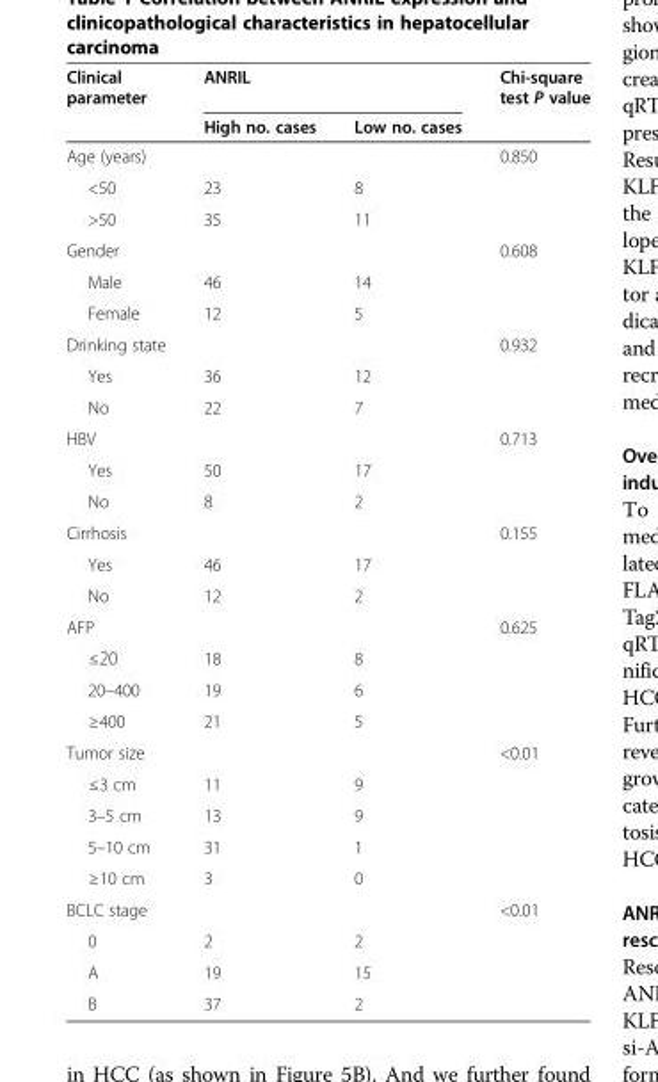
<table><thead><tr><td rowspan="2">Clinical parameter</td><td colspan="2">ANRIL</td><td rowspan="2">Chi-square test P value</td></tr><tr><td>High no. cases</td><td>Low no. cases</td></tr></thead><tbody><tr><td>Age (years)</td><td></td><td></td><td>0.850</td></tr><tr><td>&lt;50</td><td>23</td><td>8</td><td></td></tr><tr><td>&gt;50</td><td>35</td><td>11</td><td></td></tr><tr><td>Gender</td><td></td><td></td><td>0.608</td></tr><tr><td>Male</td><td>46</td><td>14</td><td></td></tr><tr><td>Female</td><td>12</td><td>5</td><td></td></tr><tr><td>Drinking state</td><td></td><td></td><td>0.932</td></tr><tr><td>Yes</td><td>36</td><td>12</td><td></td></tr><tr><td>No</td><td>22</td><td>7</td><td></td></tr><tr><td>HBV</td><td></td><td></td><td>0.713</td></tr><tr><td>Yes</td><td>50</td><td>17</td><td></td></tr><tr><td>No</td><td>8</td><td>2</td><td></td></tr><tr><td>Cirrhosis</td><td></td><td></td><td>0.155</td></tr><tr><td>Yes</td><td>46</td><td>17</td><td></td></tr><tr><td>No</td><td>12</td><td>2</td><td></td></tr><tr><td>AFP</td><td></td><td></td><td>0.625</td></tr><tr><td>≤20</td><td>18</td><td>8</td><td></td></tr><tr><td>20–400</td><td>19</td><td>6</td><td></td></tr><tr><td>≥400</td><td>21</td><td>5</td><td></td></tr><tr><td>Tumor size</td><td></td><td></td><td>&lt;0.01</td></tr><tr><td>≤3 cm</td><td>11</td><td>9</td><td></td></tr><tr><td>3–5 cm</td><td>13</td><td>9</td><td></td></tr><tr><td>5–10 cm</td><td>31</td><td>1</td><td></td></tr><tr><td>≥10 cm</td><td>3</td><td>0</td><td></td></tr><tr><td>BCLC stage</td><td></td><td></td><td>&lt;0.01</td></tr><tr><td>0</td><td>2</td><td>2</td><td></td></tr><tr><td>A</td><td>19</td><td>15</td><td></td></tr><tr><td>B</td><td>37</td><td>2</td><td></td></tr></tbody></table>